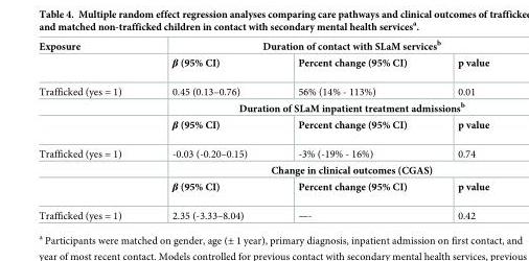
<table><tbody><tr><td rowspan="2">Exposure</td><td colspan="3">Duration of contact with SLaM services<sup>b</sup></td></tr><tr><td>β (95% CI)</td><td>Percent change (95% CI)</td><td>p value</td></tr><tr><td rowspan="3">Trafficked (yes = 1)</td><td>0.45 (0.13–0.76)</td><td>56% (14% - 113%)</td><td>0.01</td></tr><tr><td colspan="3">Duration of SLaM inpatient treatment admissions<sup>b</sup></td></tr><tr><td>β (95% CI)</td><td>Percent change (95% CI)</td><td>p value</td></tr><tr><td rowspan="3">Trafficked (yes = 1)</td><td>-0.03 (-0.20–0.15)</td><td>-3% (-19% - 16%)</td><td>0.74</td></tr><tr><td colspan="3">Change in clinical outcomes (CGAS)</td></tr><tr><td>β (95% CI)</td><td>Percent change (95% CI)</td><td>p value</td></tr><tr><td>Trafficked (yes = 1)</td><td>2.35 (-3.33–8.04)</td><td>—-</td><td>0.42</td></tr></tbody></table>